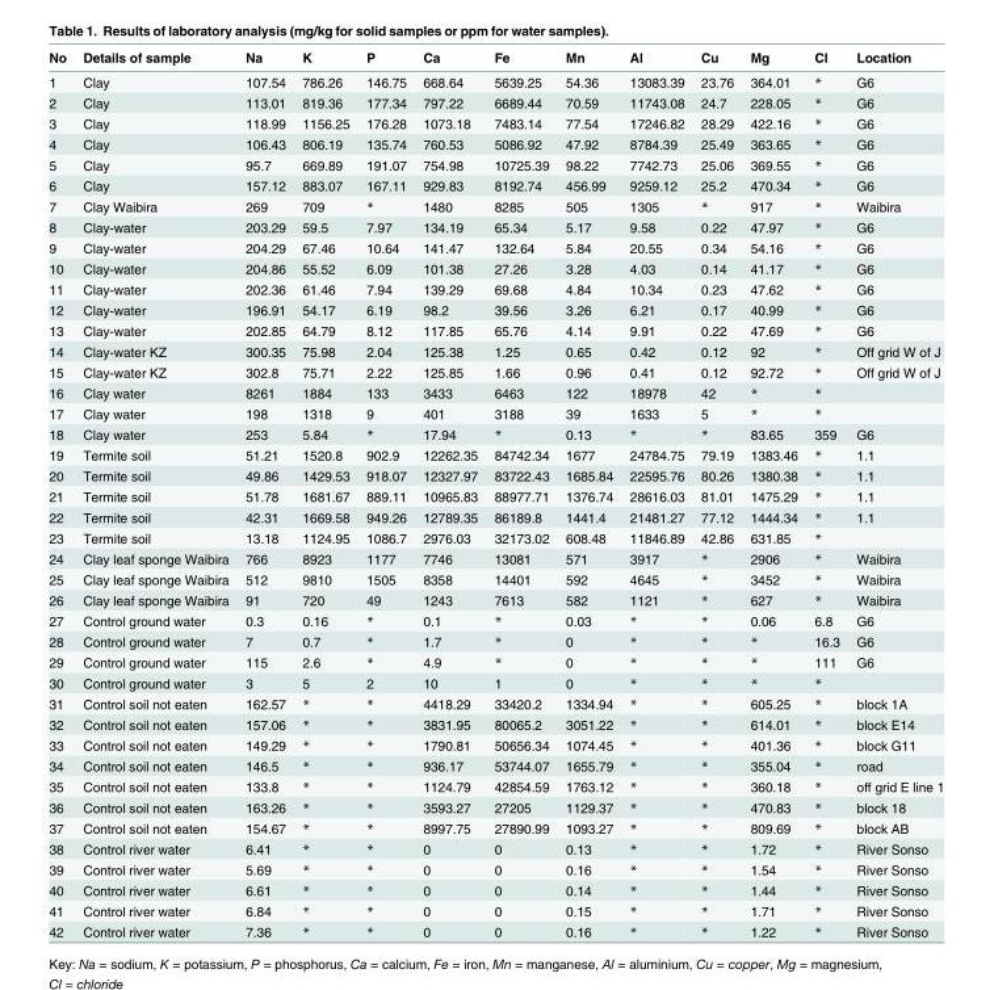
<table><thead><tr><td>No</td><td>Details of sample</td><td>Na</td><td>K</td><td>P</td><td>Ca</td><td>Fe</td><td>Mn</td><td>Al</td><td>Cu</td><td>Mg</td><td>Cl</td><td>Location</td></tr></thead><tbody><tr><td>1</td><td>Clay</td><td>107.54</td><td>786.26</td><td>146.75</td><td>668.64</td><td>5639.25</td><td>54.36</td><td>13083.39</td><td>23.76</td><td>364.01</td><td>*</td><td>G6</td></tr><tr><td>2</td><td>Clay</td><td>113.01</td><td>819.36</td><td>177.34</td><td>797.22</td><td>6689.44</td><td>70.59</td><td>11743.08</td><td>24.7</td><td>228.05</td><td>*</td><td>G6</td></tr><tr><td>3</td><td>Clay</td><td>118.99</td><td>1156.25</td><td>176.28</td><td>1073.18</td><td>7483.14</td><td>77.54</td><td>17246.82</td><td>28.29</td><td>422.16</td><td>*</td><td>G6</td></tr><tr><td>4</td><td>Clay</td><td>106.43</td><td>806.19</td><td>135.74</td><td>760.53</td><td>5086.92</td><td>47.92</td><td>8784.39</td><td>25.49</td><td>363.65</td><td>*</td><td>G6</td></tr><tr><td>5</td><td>Clay</td><td>95.7</td><td>669.89</td><td>191.07</td><td>754.98</td><td>10725.39</td><td>98.22</td><td>7742.73</td><td>25.06</td><td>369.55</td><td>*</td><td>G6</td></tr><tr><td>6</td><td>Clay</td><td>157.12</td><td>883.07</td><td>167.11</td><td>929.83</td><td>8192.74</td><td>456.99</td><td>9259.12</td><td>25.2</td><td>470.34</td><td>*</td><td>G6</td></tr><tr><td>7</td><td>Clay Waibira</td><td>269</td><td>709</td><td>*</td><td>1480</td><td>8285</td><td>505</td><td>1305</td><td>*</td><td>917</td><td>*</td><td>Waibira</td></tr><tr><td>8</td><td>Clay-water</td><td>203.29</td><td>59.5</td><td>7.97</td><td>134.19</td><td>65.34</td><td>5.17</td><td>9.58</td><td>0.22</td><td>47.97</td><td>*</td><td>G6</td></tr><tr><td>9</td><td>Clay-water</td><td>204.29</td><td>67.46</td><td>10.64</td><td>141.47</td><td>132.64</td><td>5.84</td><td>20.55</td><td>0.34</td><td>54.16</td><td>*</td><td>G6</td></tr><tr><td>10</td><td>Clay-water</td><td>204.86</td><td>55.52</td><td>6.09</td><td>101.38</td><td>27.26</td><td>3.28</td><td>4.03</td><td>0.14</td><td>41.17</td><td>*</td><td>G6</td></tr><tr><td>11</td><td>Clay-water</td><td>202.36</td><td>61.46</td><td>7.94</td><td>139.29</td><td>69.68</td><td>4.84</td><td>10.34</td><td>0.23</td><td>47.62</td><td>*</td><td>G6</td></tr><tr><td>12</td><td>Clay-water</td><td>196.91</td><td>54.17</td><td>6.19</td><td>98.2</td><td>39.56</td><td>3.26</td><td>6.21</td><td>0.17</td><td>40.99</td><td>*</td><td>G6</td></tr><tr><td>13</td><td>Clay-water</td><td>202.85</td><td>64.79</td><td>8.12</td><td>117.85</td><td>65.76</td><td>4.14</td><td>9.91</td><td>0.22</td><td>47.69</td><td>*</td><td>G6</td></tr><tr><td>14</td><td>Clay-water KZ</td><td>300.35</td><td>75.98</td><td>2.04</td><td>125.38</td><td>1.25</td><td>0.65</td><td>0.42</td><td>0.12</td><td>92</td><td>*</td><td>Off grid W of J</td></tr><tr><td>15</td><td>Clay-water KZ</td><td>302.8</td><td>75.71</td><td>2.22</td><td>125.85</td><td>1.66</td><td>0.96</td><td>0.41</td><td>0.12</td><td>92.72</td><td>*</td><td>Off grid W of J</td></tr><tr><td>16</td><td>Clay water</td><td>8261</td><td>1884</td><td>133</td><td>3433</td><td>6463</td><td>122</td><td>18978</td><td>42</td><td>*</td><td>*</td><td></td></tr><tr><td>17</td><td>Clay water</td><td>198</td><td>1318</td><td>9</td><td>401</td><td>3188</td><td>39</td><td>1633</td><td>5</td><td>*</td><td>*</td><td></td></tr><tr><td>18</td><td>Clay water</td><td>253</td><td>5.84</td><td>*</td><td>17.94</td><td>*</td><td>0.13</td><td>*</td><td>*</td><td>83.65</td><td>359</td><td>G6</td></tr><tr><td>19</td><td>Termite soil</td><td>51.21</td><td>1520.8</td><td>902.9</td><td>12262.35</td><td>84742.34</td><td>1677</td><td>24784.75</td><td>79.19</td><td>1383.46</td><td>*</td><td>1.1</td></tr><tr><td>20</td><td>Termite soil</td><td>49.86</td><td>1429.53</td><td>918.07</td><td>12327.97</td><td>83722.43</td><td>1685.84</td><td>22595.76</td><td>80.26</td><td>1380.38</td><td>*</td><td>1.1</td></tr><tr><td>21</td><td>Termite soil</td><td>51.78</td><td>1681.67</td><td>889.11</td><td>10965.83</td><td>88977.71</td><td>1376.74</td><td>28616.03</td><td>81.01</td><td>1475.29</td><td>*</td><td>1.1</td></tr><tr><td>22</td><td>Termite soil</td><td>42.31</td><td>1669.58</td><td>949.26</td><td>12789.35</td><td>86189.8</td><td>1441.4</td><td>21481.27</td><td>77.12</td><td>1444.34</td><td>*</td><td>1.1</td></tr><tr><td>23</td><td>Termite soil</td><td>13.18</td><td>1124.95</td><td>1086.7</td><td>2976.03</td><td>32173.02</td><td>608.48</td><td>11846.89</td><td>42.86</td><td>631.85</td><td>*</td><td></td></tr><tr><td>24</td><td>Clay leaf sponge Waibira</td><td>766</td><td>8923</td><td>1177</td><td>7746</td><td>13081</td><td>571</td><td>3917</td><td>*</td><td>2906</td><td>*</td><td>Waibira</td></tr><tr><td>25</td><td>Clay leaf sponge Waibira</td><td>512</td><td>9810</td><td>1505</td><td>8358</td><td>14401</td><td>592</td><td>4645</td><td>*</td><td>3452</td><td>*</td><td>Waibira</td></tr><tr><td>26</td><td>Clay leaf sponge Waibira</td><td>91</td><td>720</td><td>49</td><td>1243</td><td>7613</td><td>582</td><td>1121</td><td>*</td><td>627</td><td>*</td><td>Waibira</td></tr><tr><td>27</td><td>Control ground water</td><td>0.3</td><td>0.16</td><td>*</td><td>0.1</td><td>*</td><td>0.03</td><td>*</td><td>*</td><td>0.06</td><td>6.8</td><td>G6</td></tr><tr><td>28</td><td>Control ground water</td><td>7</td><td>0.7</td><td>*</td><td>1.7</td><td>*</td><td>0</td><td>*</td><td>*</td><td>*</td><td>16.3</td><td>G6</td></tr><tr><td>29</td><td>Control ground water</td><td>115</td><td>2.6</td><td>*</td><td>4.9</td><td>*</td><td>0</td><td>*</td><td>*</td><td>*</td><td>111</td><td>G6</td></tr><tr><td>30</td><td>Control ground water</td><td>3</td><td>5</td><td>2</td><td>10</td><td>1</td><td>0</td><td>*</td><td>*</td><td>*</td><td>*</td><td></td></tr><tr><td>31</td><td>Control soil not eaten</td><td>162.57</td><td>*</td><td>*</td><td>4418.29</td><td>33420.2</td><td>1334.94</td><td>*</td><td>*</td><td>605.25</td><td>*</td><td>block 1A</td></tr><tr><td>32</td><td>Control soil not eaten</td><td>157.06</td><td>*</td><td>*</td><td>3831.95</td><td>80065.2</td><td>3051.22</td><td>*</td><td>*</td><td>614.01</td><td>*</td><td>block E14</td></tr><tr><td>33</td><td>Control soil not eaten</td><td>149.29</td><td>*</td><td>*</td><td>1790.81</td><td>50656.34</td><td>1074.45</td><td>*</td><td>*</td><td>401.36</td><td>*</td><td>block G11</td></tr><tr><td>34</td><td>Control soil not eaten</td><td>146.5</td><td>*</td><td>*</td><td>936.17</td><td>53744.07</td><td>1655.79</td><td>*</td><td>*</td><td>355.04</td><td>*</td><td>road</td></tr><tr><td>35</td><td>Control soil not eaten</td><td>133.8</td><td>*</td><td>*</td><td>1124.79</td><td>42854.59</td><td>1763.12</td><td>*</td><td>*</td><td>360.18</td><td>*</td><td>off grid E line 1</td></tr><tr><td>36</td><td>Control soil not eaten</td><td>163.26</td><td>*</td><td>*</td><td>3593.27</td><td>27205</td><td>1129.37</td><td>*</td><td>*</td><td>470.83</td><td>*</td><td>block 18</td></tr><tr><td>37</td><td>Control soil not eaten</td><td>154.67</td><td>*</td><td>*</td><td>8997.75</td><td>27890.99</td><td>1093.27</td><td>*</td><td>*</td><td>809.69</td><td>*</td><td>block AB</td></tr><tr><td>38</td><td>Control river water</td><td>6.41</td><td>*</td><td>*</td><td>0</td><td>0</td><td>0.13</td><td>*</td><td>*</td><td>1.72</td><td>*</td><td>River Sonso</td></tr><tr><td>39</td><td>Control river water</td><td>5.69</td><td>*</td><td>*</td><td>0</td><td>0</td><td>0.16</td><td>*</td><td>*</td><td>1.54</td><td>*</td><td>River Sonso</td></tr><tr><td>40</td><td>Control river water</td><td>6.61</td><td>*</td><td>*</td><td>0</td><td>0</td><td>0.14</td><td>*</td><td>*</td><td>1.44</td><td>*</td><td>River Sonso</td></tr><tr><td>41</td><td>Control river water</td><td>6.84</td><td>*</td><td>*</td><td>0</td><td>0</td><td>0.15</td><td>*</td><td>*</td><td>1.71</td><td>*</td><td>River Sonso</td></tr><tr><td>42</td><td>Control river water</td><td>7.36</td><td>*</td><td>*</td><td>0</td><td>0</td><td>0.16</td><td>*</td><td>*</td><td>1.22</td><td>*</td><td>River Sonso</td></tr></tbody></table>